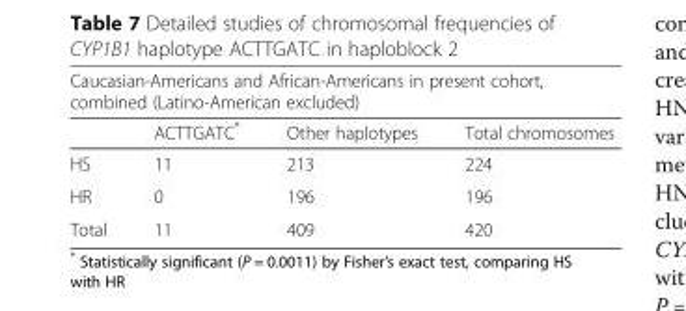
<table><thead><tr><td colspan="4">Caucasian-Americans and African-Americans in present cohort, combined (Latino-American excluded)</td></tr><tr><td></td><td>ACTTGATC*</td><td>Other haplotypes</td><td>Total chromosomes</td></tr></thead><tbody><tr><td>HS</td><td>11</td><td>213</td><td>224</td></tr><tr><td>HR</td><td>0</td><td>196</td><td>196</td></tr><tr><td>Total</td><td>11</td><td>409</td><td>420</td></tr></tbody></table>